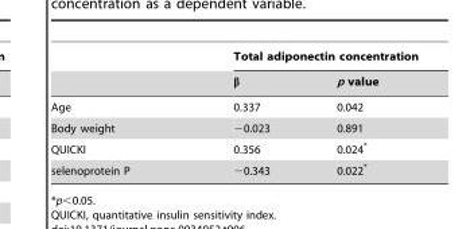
<table><thead><tr><td rowspan="2"></td><td colspan="2">Total adiponectin concentration</td></tr><tr><td>β</td><td>p value</td></tr></thead><tbody><tr><td>Age</td><td>0.337</td><td>0.042</td></tr><tr><td>Body weight</td><td>−0.023</td><td>0.891</td></tr><tr><td>QUICKI</td><td>0.356</td><td>0.024*</td></tr><tr><td>selenoprotein P</td><td>−0.343</td><td>0.022*</td></tr></tbody></table>